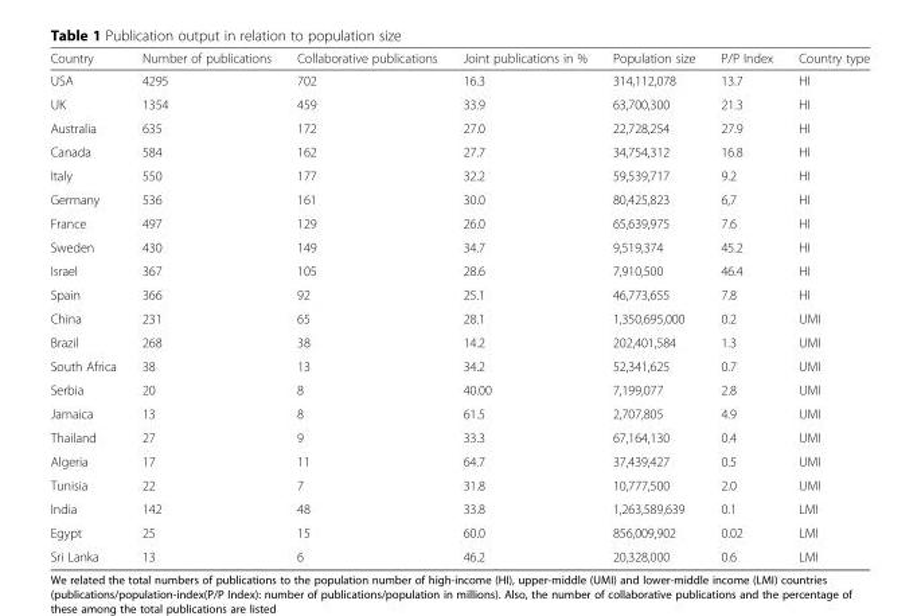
<table><thead><tr><td>Country</td><td>Number of publications</td><td>Collaborative publications</td><td>Joint publications in %</td><td>Population size</td><td>P/P Index</td><td>Country type</td></tr></thead><tbody><tr><td>USA</td><td>4295</td><td>702</td><td>16.3</td><td>314,112,078</td><td>13.7</td><td>HI</td></tr><tr><td>UK</td><td>1354</td><td>459</td><td>33.9</td><td>63,700,300</td><td>21.3</td><td>HI</td></tr><tr><td>Australia</td><td>635</td><td>172</td><td>27.0</td><td>22,728,254</td><td>27.9</td><td>HI</td></tr><tr><td>Canada</td><td>584</td><td>162</td><td>27.7</td><td>34,754,312</td><td>16.8</td><td>HI</td></tr><tr><td>Italy</td><td>550</td><td>177</td><td>32.2</td><td>59,539,717</td><td>9.2</td><td>HI</td></tr><tr><td>Germany</td><td>536</td><td>161</td><td>30.0</td><td>80,425,823</td><td>6,7</td><td>HI</td></tr><tr><td>France</td><td>497</td><td>129</td><td>26.0</td><td>65,639,975</td><td>7.6</td><td>HI</td></tr><tr><td>Sweden</td><td>430</td><td>149</td><td>34.7</td><td>9,519,374</td><td>45.2</td><td>HI</td></tr><tr><td>Israel</td><td>367</td><td>105</td><td>28.6</td><td>7,910,500</td><td>46.4</td><td>HI</td></tr><tr><td>Spain</td><td>366</td><td>92</td><td>25.1</td><td>46,773,655</td><td>7.8</td><td>HI</td></tr><tr><td>China</td><td>231</td><td>65</td><td>28.1</td><td>1,350,695,000</td><td>0.2</td><td>UMI</td></tr><tr><td>Brazil</td><td>268</td><td>38</td><td>14.2</td><td>202,401,584</td><td>1.3</td><td>UMI</td></tr><tr><td>South Africa</td><td>38</td><td>13</td><td>34.2</td><td>52,341,625</td><td>0.7</td><td>UMI</td></tr><tr><td>Serbia</td><td>20</td><td>8</td><td>40.00</td><td>7,199,077</td><td>2.8</td><td>UMI</td></tr><tr><td>Jamaica</td><td>13</td><td>8</td><td>61.5</td><td>2,707,805</td><td>4.9</td><td>UMI</td></tr><tr><td>Thailand</td><td>27</td><td>9</td><td>33.3</td><td>67,164,130</td><td>0.4</td><td>UMI</td></tr><tr><td>Algeria</td><td>17</td><td>11</td><td>64.7</td><td>37,439,427</td><td>0.5</td><td>UMI</td></tr><tr><td>Tunisia</td><td>22</td><td>7</td><td>31.8</td><td>10,777,500</td><td>2.0</td><td>UMI</td></tr><tr><td>India</td><td>142</td><td>48</td><td>33.8</td><td>1,263,589,639</td><td>0.1</td><td>LMI</td></tr><tr><td>Egypt</td><td>25</td><td>15</td><td>60.0</td><td>856,009,902</td><td>0.02</td><td>LMI</td></tr><tr><td>Sri Lanka</td><td>13</td><td>6</td><td>46.2</td><td>20,328,000</td><td>0.6</td><td>LMI</td></tr></tbody></table>